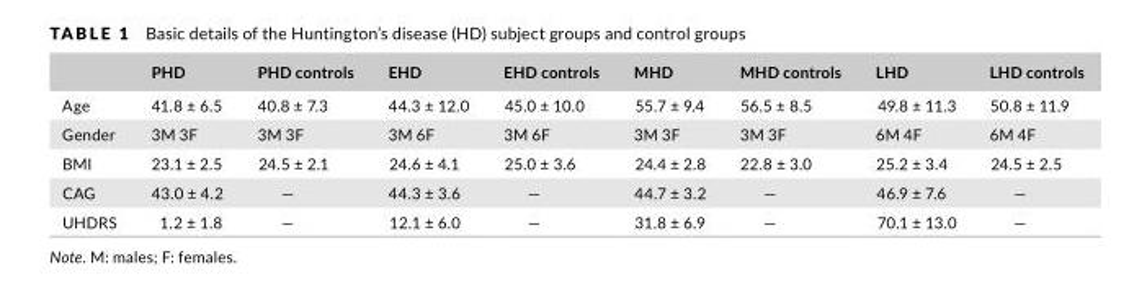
<table><thead><tr><td></td><td>PHD</td><td>PHD controls</td><td>EHD</td><td>EHD controls</td><td>MHD</td><td>MHD controls</td><td>LHD</td><td>LHD controls</td></tr></thead><tbody><tr><td>Age</td><td>41.8 ± 6.5</td><td>40.8 ± 7.3</td><td>44.3 ± 12.0</td><td>45.0 ± 10.0</td><td>55.7 ± 9.4</td><td>56.5 ± 8.5</td><td>49.8 ± 11.3</td><td>50.8 ± 11.9</td></tr><tr><td>Gender</td><td>3M 3F</td><td>3M 3F</td><td>3M 6F</td><td>3M 6F</td><td>3M 3F</td><td>3M 3F</td><td>6M 4F</td><td>6M 4F</td></tr><tr><td>BMI</td><td>23.1 ± 2.5</td><td>24.5 ± 2.1</td><td>24.6 ± 4.1</td><td>25.0 ± 3.6</td><td>24.4 ± 2.8</td><td>22.8 ± 3.0</td><td>25.2 ± 3.4</td><td>24.5 ± 2.5</td></tr><tr><td>CAG</td><td>43.0 ± 4.2</td><td>—</td><td>44.3 ± 3.6</td><td>—</td><td>44.7 ± 3.2</td><td>—</td><td>46.9 ± 7.6</td><td>—</td></tr><tr><td>UHDRS</td><td>1.2 ± 1.8</td><td>—</td><td>12.1 ± 6.0</td><td>—</td><td>31.8 ± 6.9</td><td>—</td><td>70.1 ± 13.0</td><td>—</td></tr></tbody></table>